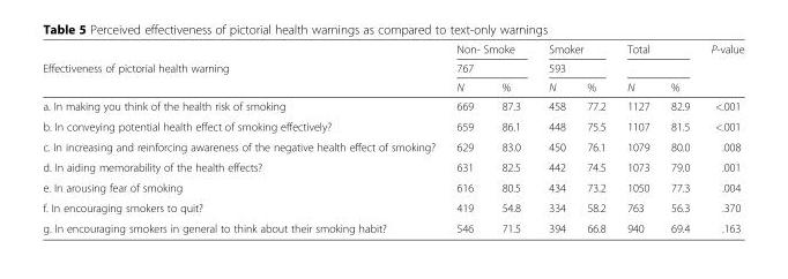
<table><thead><tr><td rowspan="3">Effectiveness of pictorial health warning</td><td rowspan="2" colspan="2">Non- Smoke 767</td><td rowspan="2" colspan="2">Smoker 593</td><td colspan="2">Total</td><td rowspan="3">P-value</td></tr><tr><td rowspan="2">N</td><td rowspan="2">%</td></tr><tr><td>N</td><td>%</td><td>N</td><td>%</td></tr></thead><tbody><tr><td>a. In making you think of the health risk of smoking</td><td>669</td><td>87.3</td><td>458</td><td>77.2</td><td>1127</td><td>82.9</td><td>&lt;.001</td></tr><tr><td>b. In conveying potential health effect of smoking effectively?</td><td>659</td><td>86.1</td><td>448</td><td>75.5</td><td>1107</td><td>81.5</td><td>&lt;.001</td></tr><tr><td>c. In increasing and reinforcing awareness of the negative health effect of smoking?</td><td>629</td><td>83.0</td><td>450</td><td>76.1</td><td>1079</td><td>80.0</td><td>.008</td></tr><tr><td>d. In aiding memorability of the health effects?</td><td>631</td><td>82.5</td><td>442</td><td>74.5</td><td>1073</td><td>79.0</td><td>.001</td></tr><tr><td>e. In arousing fear of smoking</td><td>616</td><td>80.5</td><td>434</td><td>73.2</td><td>1050</td><td>77.3</td><td>.004</td></tr><tr><td>f. In encouraging smokers to quit?</td><td>419</td><td>54.8</td><td>334</td><td>58.2</td><td>763</td><td>56.3</td><td>.370</td></tr><tr><td>g. In encouraging smokers in general to think about their smoking habit?</td><td>546</td><td>71.5</td><td>394</td><td>66.8</td><td>940</td><td>69.4</td><td>.163</td></tr></tbody></table>